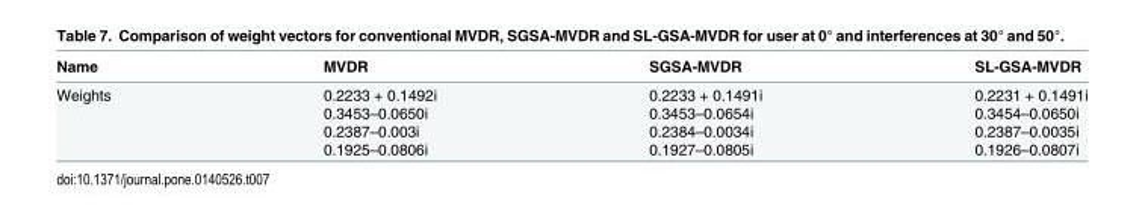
<table><thead><tr><td>Name</td><td>MVDR</td><td>SGSA-MVDR</td><td>SL-GSA-MVDR</td></tr></thead><tbody><tr><td>Weights</td><td>0.2233 + 0.1492i 0.3453–0.0650i 0.2387–0.003i 0.1925–0.0806i</td><td>0.2233 + 0.1491i 0.3453–0.0654i 0.2384–0.0034i 0.1927–0.0805i</td><td>0.2231 + 0.1491i 0.3454–0.0650i 0.2387–0.0035i 0.1926–0.0807i</td></tr></tbody></table>